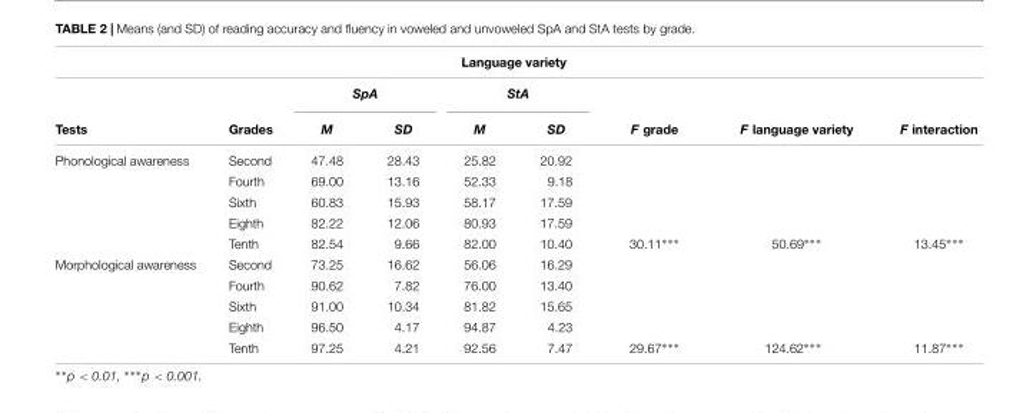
<table><thead><tr><td colspan="9">Language variety</td></tr><tr><td rowspan="2">Tests</td><td rowspan="2">Grades</td><td colspan="2">SpA</td><td colspan="2">StA</td><td rowspan="2">F grade</td><td rowspan="2">F language variety</td><td rowspan="2">F interaction</td></tr><tr><td>M</td><td>SD</td><td>M</td><td>SD</td></tr></thead><tbody><tr><td rowspan="5">Phonological awareness</td><td>Second</td><td>47.48</td><td>28.43</td><td>25.82</td><td>20.92</td><td></td><td></td><td></td></tr><tr><td>Fourth</td><td>69.00</td><td>13.16</td><td>52.33</td><td>9.18</td><td></td><td></td><td></td></tr><tr><td>Sixth</td><td>60.83</td><td>15.93</td><td>58.17</td><td>17.59</td><td></td><td></td><td></td></tr><tr><td>Eighth</td><td>82.22</td><td>12.06</td><td>80.93</td><td>17.59</td><td></td><td></td><td></td></tr><tr><td>Tenth</td><td>82.54</td><td>9.66</td><td>82.00</td><td>10.40</td><td>30.11∗∗∗</td><td>50.69∗∗∗</td><td>13.45∗∗∗</td></tr><tr><td rowspan="5">Morphological awareness</td><td>Second</td><td>73.25</td><td>16.62</td><td>56.06</td><td>16.29</td><td></td><td></td><td></td></tr><tr><td>Fourth</td><td>90.62</td><td>7.82</td><td>76.00</td><td>13.40</td><td></td><td></td><td></td></tr><tr><td>Sixth</td><td>91.00</td><td>10.34</td><td>81.82</td><td>15.65</td><td></td><td></td><td></td></tr><tr><td>Eighth</td><td>96.50</td><td>4.17</td><td>94.87</td><td>4.23</td><td></td><td></td><td></td></tr><tr><td>Tenth</td><td>97.25</td><td>4.21</td><td>92.56</td><td>7.47</td><td>29.67∗∗∗</td><td>124.62∗∗∗</td><td>11.87∗∗∗</td></tr></tbody></table>